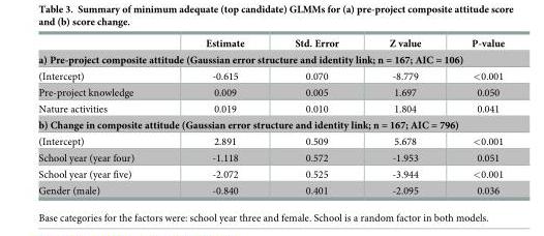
<table><thead><tr><td></td><td>Estimate</td><td>Std. Error</td><td>Z value</td><td>P-value</td></tr></thead><tbody><tr><td colspan="5">a) Pre-project composite attitude (Gaussian error structure and identity link; n = 167; AIC = 106)</td></tr><tr><td>(Intercept)</td><td>-0.615</td><td>0.070</td><td>-8.779</td><td>&lt;0.001</td></tr><tr><td>Pre-project knowledge</td><td>0.009</td><td>0.005</td><td>1.697</td><td>0.050</td></tr><tr><td>Nature activities</td><td>0.019</td><td>0.010</td><td>1.804</td><td>0.041</td></tr><tr><td colspan="5">b) Change in composite attitude (Gaussian error structure and identity link; n = 167; AIC = 796)</td></tr><tr><td>(Intercept)</td><td>2.891</td><td>0.509</td><td>5.678</td><td>&lt;0.001</td></tr><tr><td>School year (year four)</td><td>-1.118</td><td>0.572</td><td>-1.953</td><td>0.051</td></tr><tr><td>School year (year five)</td><td>-2.072</td><td>0.525</td><td>-3.944</td><td>&lt;0.001</td></tr><tr><td>Gender (male)</td><td>-0.840</td><td>0.401</td><td>-2.095</td><td>0.036</td></tr></tbody></table>